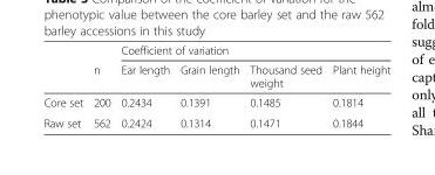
<table><thead><tr><td rowspan="2"></td><td rowspan="2">n</td><td colspan="4">Coefficient of variation</td></tr><tr><td>Ear length</td><td>Grain length</td><td>Thousand seed weight</td><td>Plant height</td></tr></thead><tbody><tr><td>Core set</td><td>200</td><td>0.2434</td><td>0.1391</td><td>0.1485</td><td>0.1814</td></tr><tr><td>Raw set</td><td>562</td><td>0.2424</td><td>0.1314</td><td>0.1471</td><td>0.1844</td></tr></tbody></table>